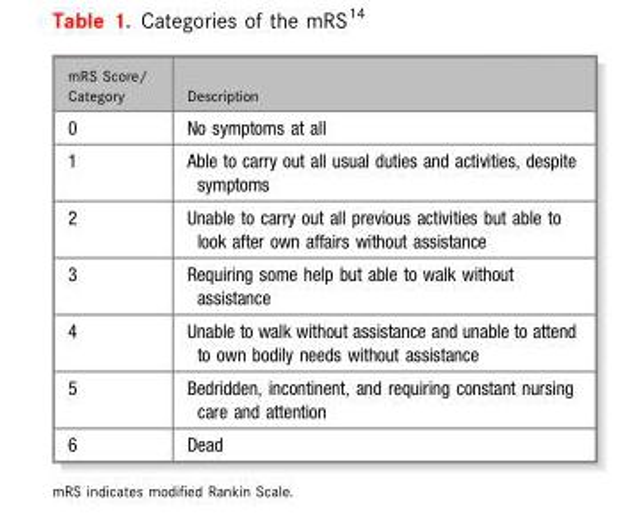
<table><thead><tr><td>mRS Score/ Category</td><td>Description</td></tr></thead><tbody><tr><td>0</td><td>No symptoms at all</td></tr><tr><td>1</td><td>Able to carry out all usual duties and activities, despite symptoms</td></tr><tr><td>2</td><td>Unable to carry out all previous activities but able to look after own affairs without assistance</td></tr><tr><td>3</td><td>Requiring some help but able to walk without assistance</td></tr><tr><td>4</td><td>Unable to walk without assistance and unable to attend to own bodily needs without assistance</td></tr><tr><td>5</td><td>Bedridden, incontinent, and requiring constant nursing care and attention</td></tr><tr><td>6</td><td>Dead</td></tr></tbody></table>